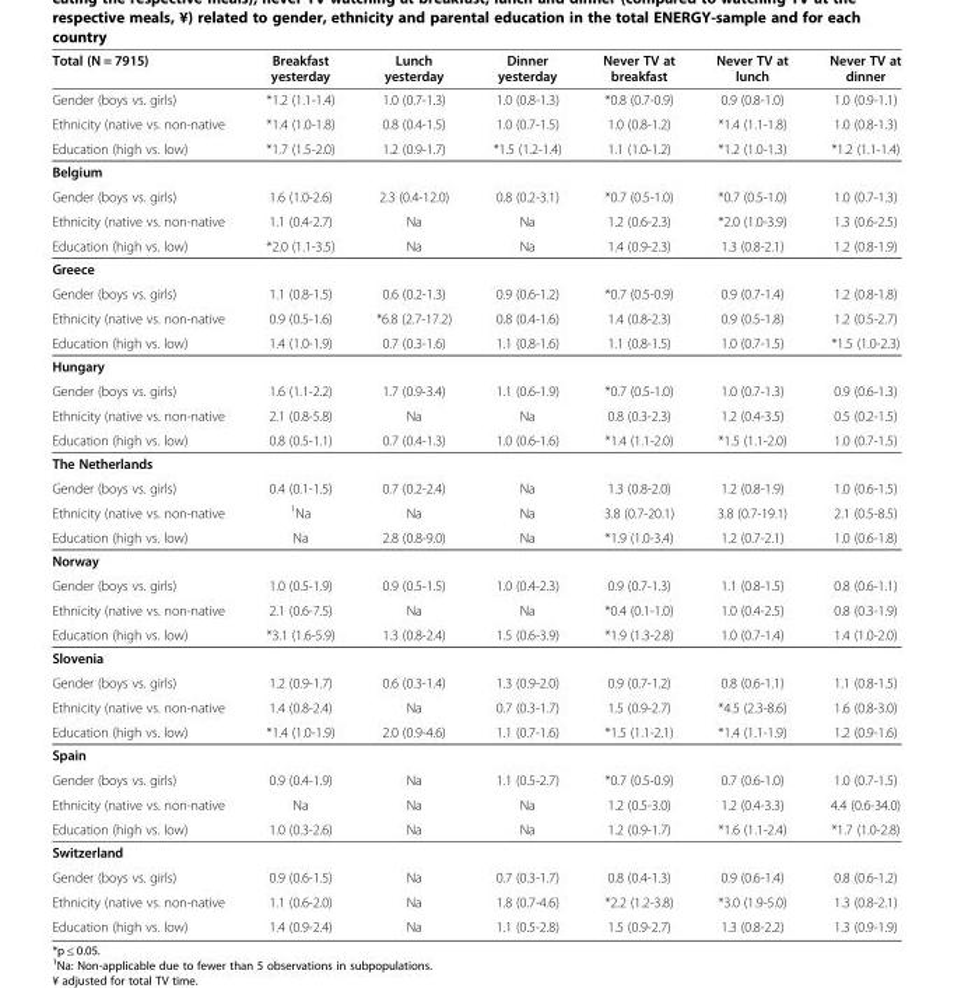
<table><thead><tr><td>Total (N = 7915)</td><td>Breakfast yesterday</td><td>Lunch yesterday</td><td>Dinner yesterday</td><td>Never TV at breakfast</td><td>Never TV at lunch</td><td>Never TV at dinner</td></tr></thead><tbody><tr><td>Gender (boys vs. girls)</td><td>*1.2 (1.1-1.4)</td><td>1.0 (0.7-1.3)</td><td>1.0 (0.8-1.3)</td><td>*0.8 (0.7-0.9)</td><td>0.9 (0.8-1.0)</td><td>1.0 (0.9-1.1)</td></tr><tr><td>Ethnicity (native vs. non-native</td><td>*1.4 (1.0-1.8)</td><td>0.8 (0.4-1.5)</td><td>1.0 (0.7-1.5)</td><td>1.0 (0.8-1.2)</td><td>*1.4 (1.1-1.8)</td><td>1.0 (0.8-1.3)</td></tr><tr><td>Education (high vs. low)</td><td>*1.7 (1.5-2.0)</td><td>1.2 (0.9-1.7)</td><td>*1.5 (1.2-1.4)</td><td>1.1 (1.0-1.2)</td><td>*1.2 (1.0-1.3)</td><td>*1.2 (1.1-1.4)</td></tr><tr><td colspan="7">Belgium</td></tr><tr><td>Gender (boys vs. girls)</td><td>1.6 (1.0-2.6)</td><td>2.3 (0.4-12.0)</td><td>0.8 (0.2-3.1)</td><td>*0.7 (0.5-1.0)</td><td>*0.7 (0.5-1.0)</td><td>1.0 (0.7-1.3)</td></tr><tr><td>Ethnicity (native vs. non-native</td><td>1.1 (0.4-2.7)</td><td>Na</td><td>Na</td><td>1.2 (0.6-2.3)</td><td>*2.0 (1.0-3.9)</td><td>1.3 (0.6-2.5)</td></tr><tr><td>Education (high vs. low)</td><td>*2.0 (1.1-3.5)</td><td>Na</td><td>Na</td><td>1.4 (0.9-2.3)</td><td>1.3 (0.8-2.1)</td><td>1.2 (0.8-1.9)</td></tr><tr><td colspan="7">Greece</td></tr><tr><td>Gender (boys vs. girls)</td><td>1.1 (0.8-1.5)</td><td>0.6 (0.2-1.3)</td><td>0.9 (0.6-1.2)</td><td>*0.7 (0.5-0.9)</td><td>0.9 (0.7-1.4)</td><td>1.2 (0.8-1.8)</td></tr><tr><td>Ethnicity (native vs. non-native</td><td>0.9 (0.5-1.6)</td><td>*6.8 (2.7-17.2)</td><td>0.8 (0.4-1.6)</td><td>1.4 (0.8-2.3)</td><td>0.9 (0.5-1.8)</td><td>1.2 (0.5-2.7)</td></tr><tr><td>Education (high vs. low)</td><td>1.4 (1.0-1.9)</td><td>0.7 (0.3-1.6)</td><td>1.1 (0.8-1.6)</td><td>1.1 (0.8-1.5)</td><td>1.0 (0.7-1.5)</td><td>*1.5 (1.0-2.3)</td></tr><tr><td colspan="7">Hungary</td></tr><tr><td>Gender (boys vs. girls)</td><td>1.6 (1.1-2.2)</td><td>1.7 (0.9-3.4)</td><td>1.1 (0.6-1.9)</td><td>*0.7 (0.5-1.0)</td><td>1.0 (0.7-1.3)</td><td>0.9 (0.6-1.3)</td></tr><tr><td>Ethnicity (native vs. non-native</td><td>2.1 (0.8-5.8)</td><td>Na</td><td>Na</td><td>0.8 (0.3-2.3)</td><td>1.2 (0.4-3.5)</td><td>0.5 (0.2-1.5)</td></tr><tr><td>Education (high vs. low)</td><td>0.8 (0.5-1.1)</td><td>0.7 (0.4-1.3)</td><td>1.0 (0.6-1.6)</td><td>*1.4 (1.1-2.0)</td><td>*1.5 (1.1-2.0)</td><td>1.0 (0.7-1.5)</td></tr><tr><td colspan="7">The Netherlands</td></tr><tr><td>Gender (boys vs. girls)</td><td>0.4 (0.1-1.5)</td><td>0.7 (0.2-2.4)</td><td>Na</td><td>1.3 (0.8-2.0)</td><td>1.2 (0.8-1.9)</td><td>1.0 (0.6-1.5)</td></tr><tr><td>Ethnicity (native vs. non-native</td><td><sup>1</sup>Na</td><td>Na</td><td>Na</td><td>3.8 (0.7-20.1)</td><td>3.8 (0.7-19.1)</td><td>2.1 (0.5-8.5)</td></tr><tr><td>Education (high vs. low)</td><td>Na</td><td>2.8 (0.8-9.0)</td><td>Na</td><td>*1.9 (1.0-3.4)</td><td>1.2 (0.7-2.1)</td><td>1.0 (0.6-1.8)</td></tr><tr><td colspan="7">Norway</td></tr><tr><td>Gender (boys vs. girls)</td><td>1.0 (0.5-1.9)</td><td>0.9 (0.5-1.5)</td><td>1.0 (0.4-2.3)</td><td>0.9 (0.7-1.3)</td><td>1.1 (0.8-1.5)</td><td>0.8 (0.6-1.1)</td></tr><tr><td>Ethnicity (native vs. non-native</td><td>2.1 (0.6-7.5)</td><td>Na</td><td>Na</td><td>*0.4 (0.1-1.0)</td><td>1.0 (0.4-2.5)</td><td>0.8 (0.3-1.9)</td></tr><tr><td>Education (high vs. low)</td><td>*3.1 (1.6-5.9)</td><td>1.3 (0.8-2.4)</td><td>1.5 (0.6-3.9)</td><td>*1.9 (1.3-2.8)</td><td>1.0 (0.7-1.4)</td><td>1.4 (1.0-2.0)</td></tr><tr><td colspan="7">Slovenia</td></tr><tr><td>Gender (boys vs. girls)</td><td>1.2 (0.9-1.7)</td><td>0.6 (0.3-1.4)</td><td>1.3 (0.9-2.0)</td><td>0.9 (0.7-1.2)</td><td>0.8 (0.6-1.1)</td><td>1.1 (0.8-1.5)</td></tr><tr><td>Ethnicity (native vs. non-native</td><td>1.4 (0.8-2.4)</td><td>Na</td><td>0.7 (0.3-1.7)</td><td>1.5 (0.9-2.7)</td><td>*4.5 (2.3-8.6)</td><td>1.6 (0.8-3.0)</td></tr><tr><td>Education (high vs. low)</td><td>*1.4 (1.0-1.9)</td><td>2.0 (0.9-4.6)</td><td>1.1 (0.7-1.6)</td><td>*1.5 (1.1-2.1)</td><td>*1.4 (1.1-1.9)</td><td>1.2 (0.9-1.6)</td></tr><tr><td colspan="7">Spain</td></tr><tr><td>Gender (boys vs. girls)</td><td>0.9 (0.4-1.9)</td><td>Na</td><td>1.1 (0.5-2.7)</td><td>*0.7 (0.5-0.9)</td><td>0.7 (0.6-1.0)</td><td>1.0 (0.7-1.5)</td></tr><tr><td>Ethnicity (native vs. non-native</td><td>Na</td><td>Na</td><td>Na</td><td>1.2 (0.5-3.0)</td><td>1.2 (0.4-3.3)</td><td>4.4 (0.6-34.0)</td></tr><tr><td>Education (high vs. low)</td><td>1.0 (0.3-2.6)</td><td>Na</td><td>Na</td><td>1.2 (0.9-1.7)</td><td>*1.6 (1.1-2.4)</td><td>*1.7 (1.0-2.8)</td></tr><tr><td colspan="7">Switzerland</td></tr><tr><td>Gender (boys vs. girls)</td><td>0.9 (0.6-1.5)</td><td>Na</td><td>0.7 (0.3-1.7)</td><td>0.8 (0.4-1.3)</td><td>0.9 (0.6-1.4)</td><td>0.8 (0.6-1.2)</td></tr><tr><td>Ethnicity (native vs. non-native</td><td>1.1 (0.6-2.0)</td><td>Na</td><td>1.8 (0.7-4.6)</td><td>*2.2 (1.2-3.8)</td><td>*3.0 (1.9-5.0)</td><td>1.3 (0.8-2.1)</td></tr><tr><td>Education (high vs. low)</td><td>1.4 (0.9-2.4)</td><td>Na</td><td>1.1 (0.5-2.8)</td><td>1.5 (0.9-2.7)</td><td>1.3 (0.8-2.2)</td><td>1.3 (0.9-1.9)</td></tr></tbody></table>